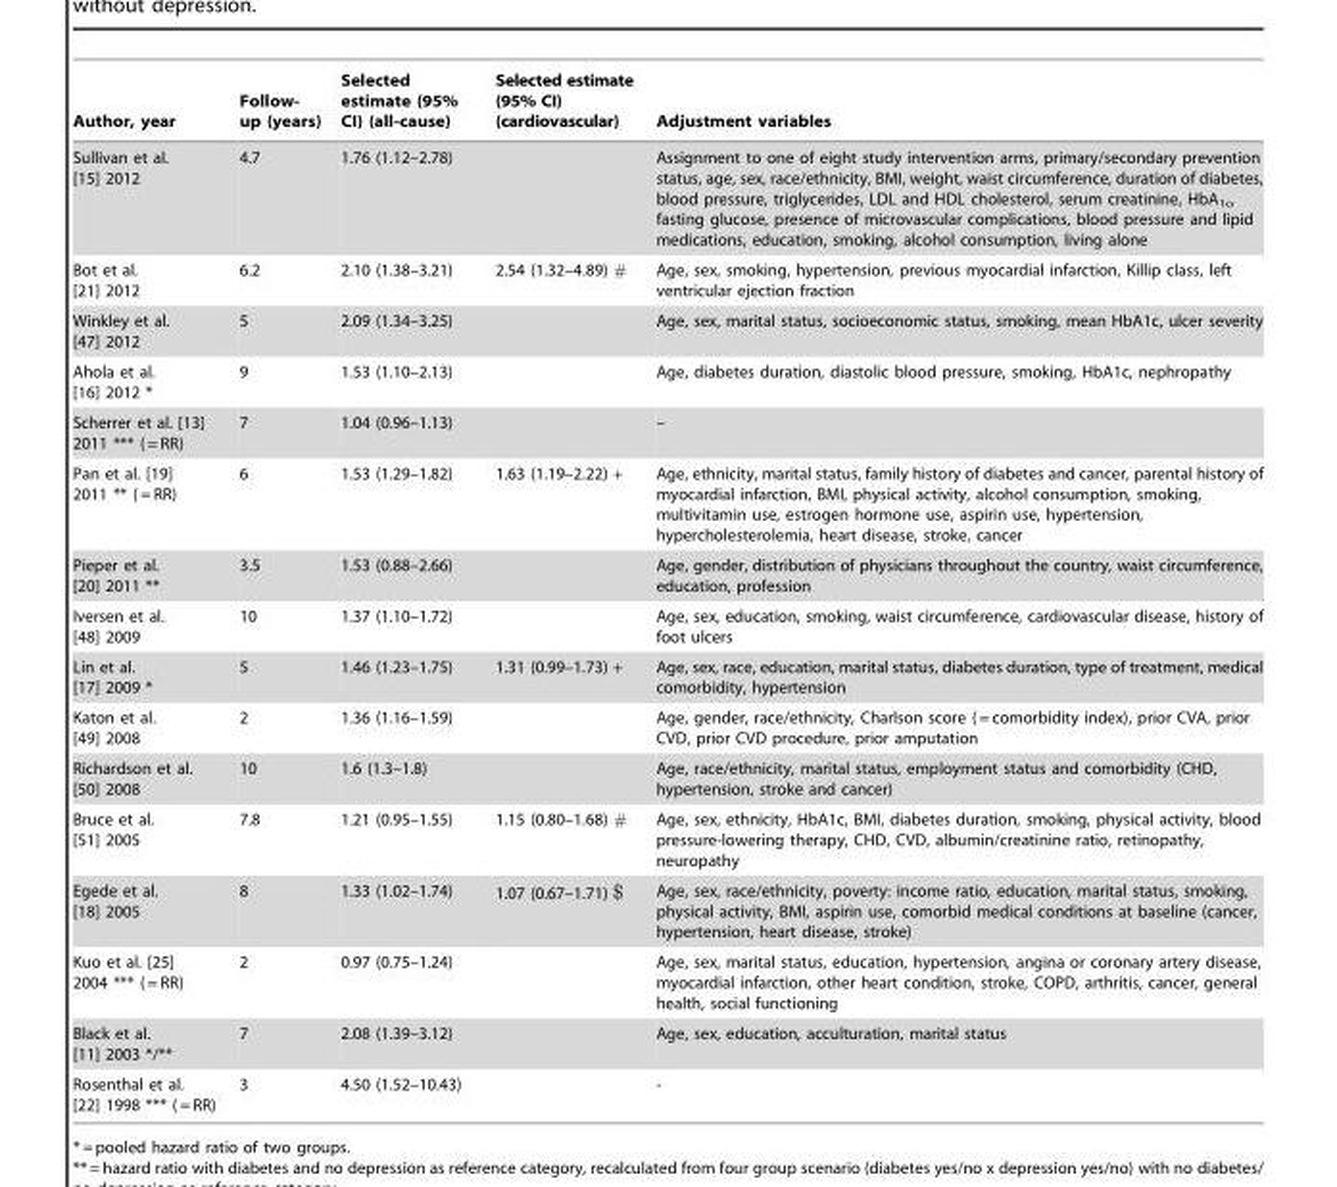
<table><thead><tr><td>Author, year</td><td>Follow- up (years)</td><td>Selected estimate (95% CI) (all-cause)</td><td>Selected estimate (95% CI) (cardiovascular)</td><td>Adjustment variables</td></tr></thead><tbody><tr><td>Sullivan et al. [15] 2012</td><td>4.7</td><td>1.76 (1.12–2.78)</td><td></td><td>Assignment to one of eight study intervention arms, primary/secondary prevention status, age, sex, race/ethnicity, BMI, weight, waist circumference, duration of diabetes, blood pressure, triglycerides, LDL and HDL cholesterol, serum creatinine, HbA<sub>1c</sub>, fasting glucose, presence of microvascular complications, blood pressure and lipid medications, education, smoking, alcohol consumption, living alone</td></tr><tr><td>Bot et al. [21] 2012</td><td>6.2</td><td>2.10 (1.38–3.21)</td><td>2.54 (1.32–4.89) #</td><td>Age, sex, smoking, hypertension, previous myocardial infarction, Killip class, left ventricular ejection fraction</td></tr><tr><td>Winkley et al. [47] 2012</td><td>5</td><td>2.09 (1.34–3.25)</td><td></td><td>Age, sex, marital status, socioeconomic status, smoking, mean HbA1c, ulcer severity</td></tr><tr><td>Ahola et al. [16] 2012 *</td><td>9</td><td>1.53 (1.10–2.13)</td><td></td><td>Age, diabetes duration, diastolic blood pressure, smoking, HbA1c, nephropathy</td></tr><tr><td>Scherrer et al. [13] 2011 *** ( = RR)</td><td>7</td><td>1.04 (0.96–1.13)</td><td></td><td>–</td></tr><tr><td>Pan et al. [19] 2011 ** ( = RR)</td><td>6</td><td>1.53 (1.29–1.82)</td><td>1.63 (1.19–2.22) +</td><td>Age, ethnicity, marital status, family history of diabetes and cancer, parental history of myocardial infarction, BMI, physical activity, alcohol consumption, smoking, multivitamin use, estrogen hormone use, aspirin use, hypertension, hypercholesterolemia, heart disease, stroke, cancer</td></tr><tr><td>Pieper et al. [20] 2011 **</td><td>3.5</td><td>1.53 (0.88–2.66)</td><td></td><td>Age, gender, distribution of physicians throughout the country, waist circumference, education, profession</td></tr><tr><td>Iversen et al. [48] 2009</td><td>10</td><td>1.37 (1.10–1.72)</td><td></td><td>Age, sex, education, smoking, waist circumference, cardiovascular disease, history of foot ulcers</td></tr><tr><td>Lin et al. [17] 2009 *</td><td>5</td><td>1.46 (1.23–1.75)</td><td>1.31 (0.99–1.73) +</td><td>Age, sex, race, education, marital status, diabetes duration, type of treatment, medical comorbidity, hypertension</td></tr><tr><td>Katon et al. [49] 2008</td><td>2</td><td>1.36 (1.16–1.59)</td><td></td><td>Age, gender, race/ethnicity, Charlson score ( = comorbidity index), prior CVA, prior CVD, prior CVD procedure, prior amputation</td></tr><tr><td>Richardson et al. [50] 2008</td><td>10</td><td>1.6 (1.3–1.8)</td><td></td><td>Age, race/ethnicity, marital status, employment status and comorbidity (CHD, hypertension, stroke and cancer)</td></tr><tr><td>Bruce et al. [51] 2005</td><td>7.8</td><td>1.21 (0.95–1.55)</td><td>1.15 (0.80–1.68) #</td><td>Age, sex, ethnicity, HbA1c, BMI, diabetes duration, smoking, physical activity, blood pressure-lowering therapy, CHD, CVD, albumin/creatinine ratio, retinopathy, neuropathy</td></tr><tr><td>Egede et al. [18] 2005</td><td>8</td><td>1.33 (1.02–1.74)</td><td>1.07 (0.67–1.71) $</td><td>Age, sex, race/ethnicity, poverty: income ratio, education, marital status, smoking, physical activity, BMI, aspirin use, comorbid medical conditions at baseline (cancer, hypertension, heart disease, stroke)</td></tr><tr><td>Kuo et al. [25] 2004 *** ( = RR)</td><td>2</td><td>0.97 (0.75–1.24)</td><td></td><td>Age, sex, marital status, education, hypertension, angina or coronary artery disease, myocardial infarction, other heart condition, stroke, COPD, arthritis, cancer, general health, social functioning</td></tr><tr><td>Black et al. [11] 2003 */**</td><td>7</td><td>2.08 (1.39–3.12)</td><td></td><td>Age, sex, education, acculturation, marital status</td></tr><tr><td>Rosenthal et al. [22] 1998 *** ( = RR)</td><td>3</td><td>4.50 (1.52–10.43)</td><td></td><td>-</td></tr></tbody></table>